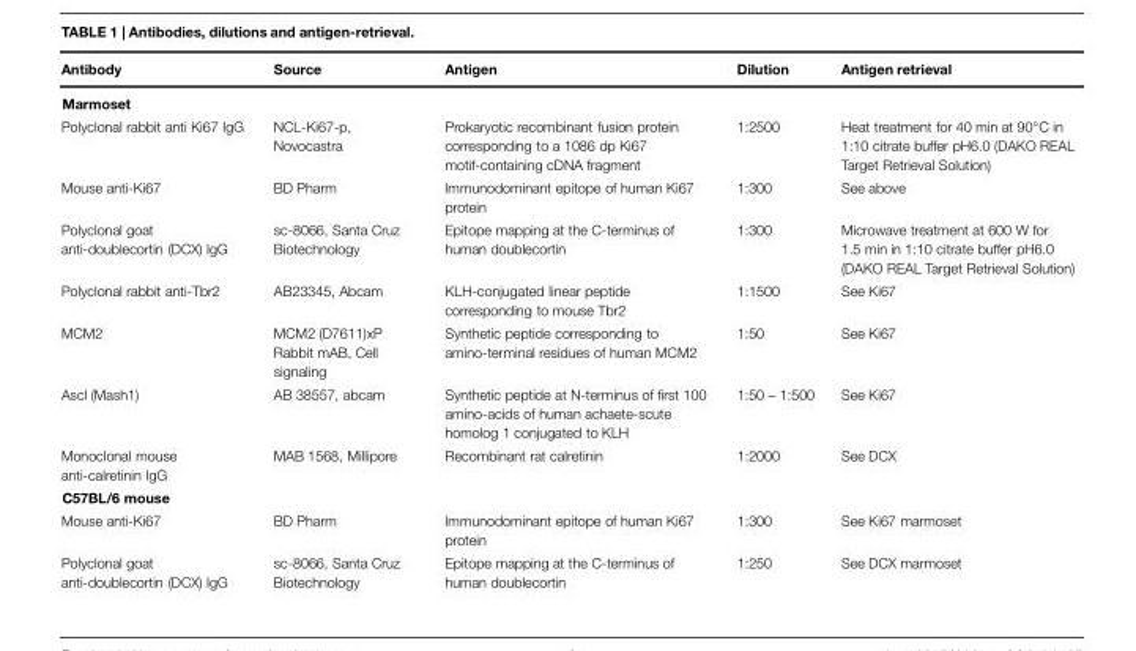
<table><thead><tr><td>Antibody</td><td>Source</td><td>Antigen</td><td>Dilution</td><td>Antigen retrieval</td></tr></thead><tbody><tr><td colspan="5">Marmoset</td></tr><tr><td>Polyclonal rabbit anti Ki67 IgG</td><td>NCL-Ki67-p, Novocastra</td><td>Prokaryotic recombinant fusion protein corresponding to a 1086 dp Ki67 motif-containing cDNA fragment</td><td>1:2500</td><td>Heat treatment for 40 min at 90◦C in 1:10 citrate buffer pH6.0 (DAKO REAL Target Retrieval Solution)</td></tr><tr><td>Mouse anti-Ki67</td><td>BD Pharm</td><td>Immunodominant epitope of human Ki67 protein</td><td>1:300</td><td>See above</td></tr><tr><td>Polyclonal goat anti-doublecortin (DCX) IgG</td><td>sc-8066, Santa Cruz Biotechnology</td><td>Epitope mapping at the C-terminus of human doublecortin</td><td>1:300</td><td>Microwave treatment at 600 W for 1.5 min in 1:10 citrate buffer pH6.0 (DAKO REAL Target Retrieval Solution)</td></tr><tr><td>Polyclonal rabbit anti-Tbr2</td><td>AB23345, Abcam</td><td>KLH-conjugated linear peptide corresponding to mouse Tbr2</td><td>1:1500</td><td>See Ki67</td></tr><tr><td>MCM2</td><td>MCM2 (D7611)xP Rabbit mAB, Cell signaling</td><td>Synthetic peptide corresponding to amino-terminal residues of human MCM2</td><td>1:50</td><td>See Ki67</td></tr><tr><td>Ascl (Mash1)</td><td>AB 38557, abcam</td><td>Synthetic peptide at N-terminus of first 100 amino-acids of human achaete-scute homolog 1 conjugated to KLH</td><td>1:50 – 1:500</td><td>See Ki67</td></tr><tr><td>Monoclonal mouse anti-calretinin IgG</td><td>MAB 1568, Millipore</td><td>Recombinant rat calretinin</td><td>1:2000</td><td>See DCX</td></tr><tr><td colspan="5">C57BL/6 mouse</td></tr><tr><td>Mouse anti-Ki67</td><td>BD Pharm</td><td>Immunodominant epitope of human Ki67 protein</td><td>1:300</td><td>See Ki67 marmoset</td></tr><tr><td>Polyclonal goat anti-doublecortin (DCX) IgG</td><td>sc-8066, Santa Cruz Biotechnology</td><td>Epitope mapping at the C-terminus of human doublecortin</td><td>1:250</td><td>See DCX marmoset</td></tr></tbody></table>